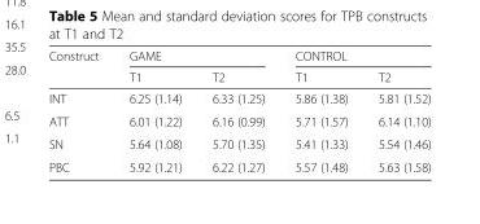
<table><thead><tr><td rowspan="2">Construct</td><td colspan="2">GAME</td><td colspan="2">CONTROL</td></tr><tr><td>T1</td><td>T2</td><td>T1</td><td>T2</td></tr></thead><tbody><tr><td>INT</td><td>6.25 (1.14)</td><td>6.33 (1.25)</td><td>5.86 (1.38)</td><td>5.81 (1.52)</td></tr><tr><td>ATT</td><td>6.01 (1.22)</td><td>6.16 (0.99)</td><td>5.71 (1.57)</td><td>6.14 (1.10)</td></tr><tr><td>SN</td><td>5.64 (1.08)</td><td>5.70 (1.35)</td><td>5.41 (1.33)</td><td>5.54 (1.46)</td></tr><tr><td>PBC</td><td>5.92 (1.21)</td><td>6.22 (1.27)</td><td>5.57 (1.48)</td><td>5.63 (1.58)</td></tr></tbody></table>